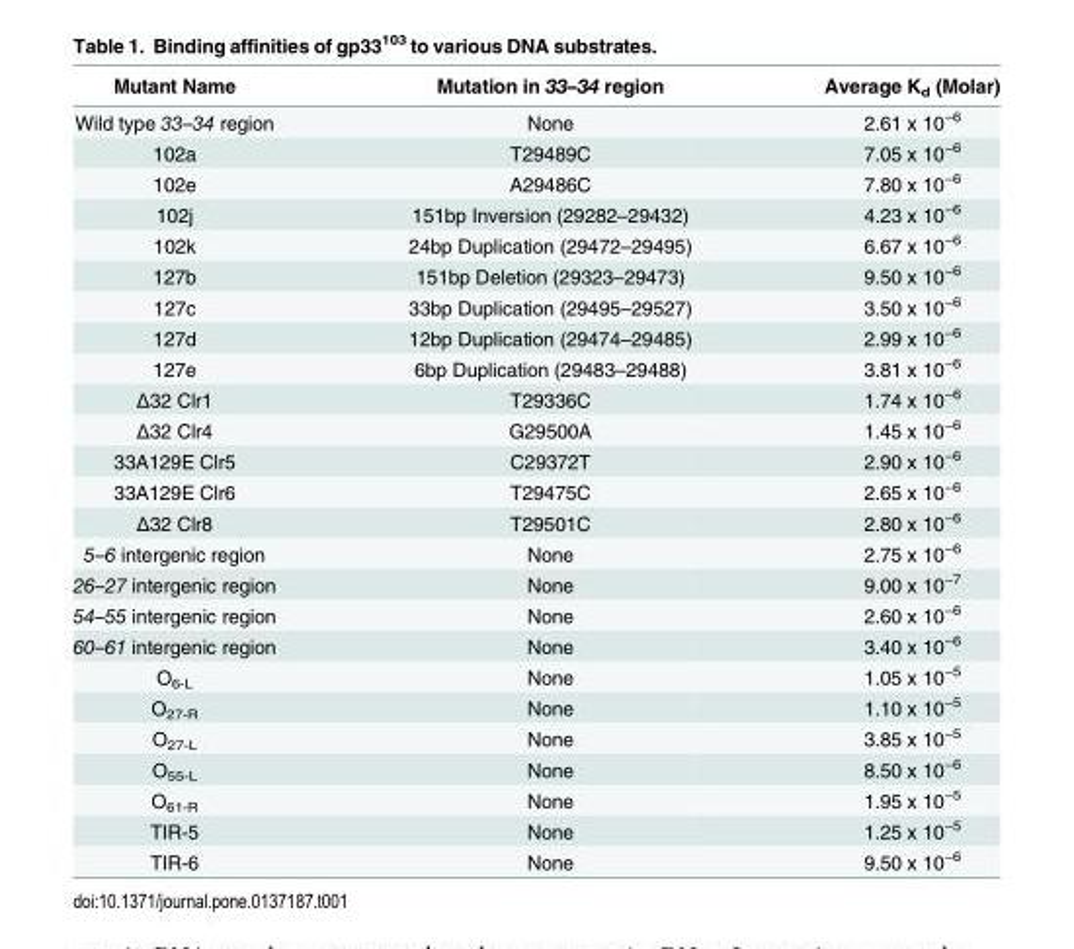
<table><thead><tr><td>Mutant Name</td><td>Mutation in 33–34 region</td><td>Average K<sub>d</sub> (Molar)</td></tr></thead><tbody><tr><td>Wild type 33–34 region</td><td>None</td><td>2.61 x 10<sup>−6</sup></td></tr><tr><td>102a</td><td>T29489C</td><td>7.05 x 10<sup>−6</sup></td></tr><tr><td>102e</td><td>A29486C</td><td>7.80 x 10<sup>−6</sup></td></tr><tr><td>102j</td><td>151bp Inversion (29282–29432)</td><td>4.23 x 10<sup>−6</sup></td></tr><tr><td>102k</td><td>24bp Duplication (29472–29495)</td><td>6.67 x 10<sup>−6</sup></td></tr><tr><td>127b</td><td>151bp Deletion (29323–29473)</td><td>9.50 x 10<sup>−6</sup></td></tr><tr><td>127c</td><td>33bp Duplication (29495–29527)</td><td>3.50 x 10<sup>−6</sup></td></tr><tr><td>127d</td><td>12bp Duplication (29474–29485)</td><td>2.99 x 10<sup>−6</sup></td></tr><tr><td>127e</td><td>6bp Duplication (29483–29488)</td><td>3.81 x 10<sup>−6</sup></td></tr><tr><td>Δ32 Clr1</td><td>T29336C</td><td>1.74 x 10<sup>−6</sup></td></tr><tr><td>Δ32 Clr4</td><td>G29500A</td><td>1.45 x 10<sup>−6</sup></td></tr><tr><td>33A129E Clr5</td><td>C29372T</td><td>2.90 x 10<sup>−6</sup></td></tr><tr><td>33A129E Clr6</td><td>T29475C</td><td>2.65 x 10<sup>−6</sup></td></tr><tr><td>Δ32 Clr8</td><td>T29501C</td><td>2.80 x 10<sup>−6</sup></td></tr><tr><td>5–6 intergenic region</td><td>None</td><td>2.75 x 10<sup>−6</sup></td></tr><tr><td>26–27 intergenic region</td><td>None</td><td>9.00 x 10<sup>−7</sup></td></tr><tr><td>54–55 intergenic region</td><td>None</td><td>2.60 x 10<sup>−6</sup></td></tr><tr><td>60–61 intergenic region</td><td>None</td><td>3.40 x 10<sup>−6</sup></td></tr><tr><td>O<sub>6-L</sub></td><td>None</td><td>1.05 x 10<sup>−5</sup></td></tr><tr><td>O<sub>27-R</sub></td><td>None</td><td>1.10 x 10<sup>−5</sup></td></tr><tr><td>O<sub>27-L</sub></td><td>None</td><td>3.85 x 10<sup>−5</sup></td></tr><tr><td>O<sub>55-L</sub></td><td>None</td><td>8.50 x 10<sup>−6</sup></td></tr><tr><td>O<sub>61-R</sub></td><td>None</td><td>1.95 x 10<sup>−5</sup></td></tr><tr><td>TIR-5</td><td>None</td><td>1.25 x 10<sup>−5</sup></td></tr><tr><td>TIR-6</td><td>None</td><td>9.50 x 10<sup>−6</sup></td></tr></tbody></table>